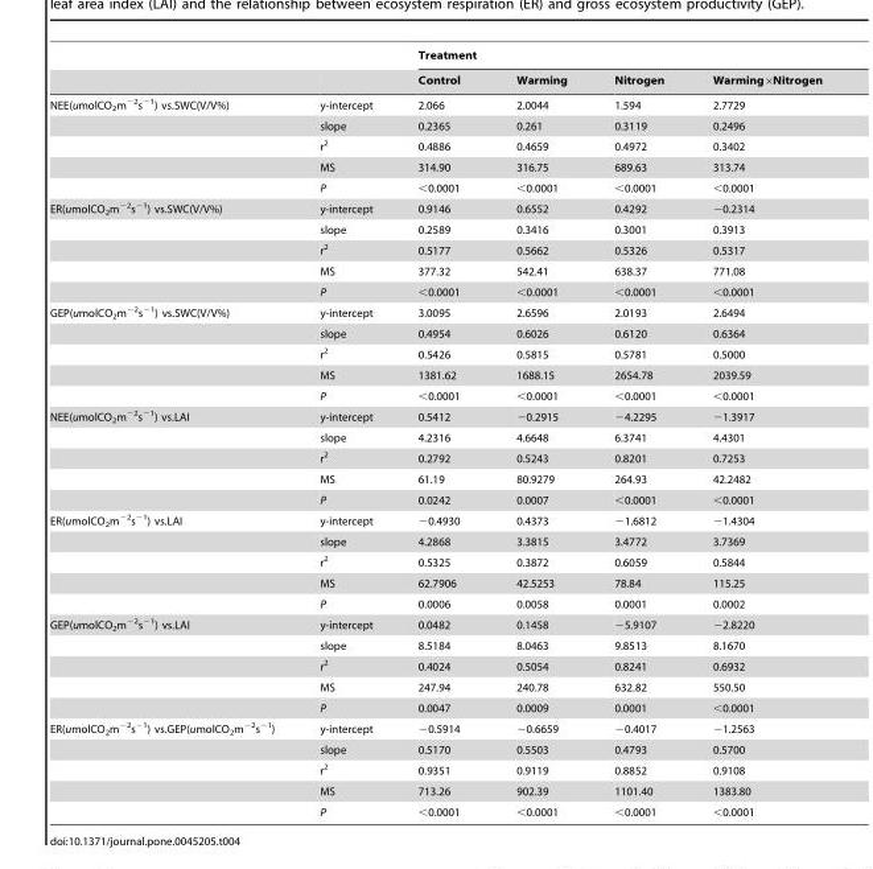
<table><thead><tr><td rowspan="2"></td><td rowspan="2"></td><td colspan="4">Treatment</td></tr><tr><td>Control</td><td>Warming</td><td>Nitrogen</td><td>Warming×Nitrogen</td></tr></thead><tbody><tr><td rowspan="5">NEE(umolCO<sub>2</sub>m<sup>−2</sup>s<sup>−1</sup>) vs.SWC(V/V%)</td><td>y-intercept</td><td>2.066</td><td>2.0044</td><td>1.594</td><td>2.7729</td></tr><tr><td>slope</td><td>0.2365</td><td>0.261</td><td>0.3119</td><td>0.2496</td></tr><tr><td>r<sup>2</sup></td><td>0.4886</td><td>0.4659</td><td>0.4972</td><td>0.3402</td></tr><tr><td>MS</td><td>314.90</td><td>316.75</td><td>689.63</td><td>313.74</td></tr><tr><td>P</td><td>&lt;0.0001</td><td>&lt;0.0001</td><td>&lt;0.0001</td><td>&lt;0.0001</td></tr><tr><td rowspan="5">ER(umolCO<sub>2</sub>m<sup>−2</sup>s<sup>−1</sup>) vs.SWC(V/V%)</td><td>y-intercept</td><td>0.9146</td><td>0.6552</td><td>0.4292</td><td>−0.2314</td></tr><tr><td>slope</td><td>0.2589</td><td>0.3416</td><td>0.3001</td><td>0.3913</td></tr><tr><td>r<sup>2</sup></td><td>0.5177</td><td>0.5662</td><td>0.5326</td><td>0.5317</td></tr><tr><td>MS</td><td>377.32</td><td>542.41</td><td>638.37</td><td>771.08</td></tr><tr><td>P</td><td>&lt;0.0001</td><td>&lt;0.0001</td><td>&lt;0.0001</td><td>&lt;0.0001</td></tr><tr><td rowspan="5">GEP(umolCO<sub>2</sub>m<sup>−2</sup>s<sup>−1</sup>) vs.SWC(V/V%)</td><td>y-intercept</td><td>3.0095</td><td>2.6596</td><td>2.0193</td><td>2.6494</td></tr><tr><td>slope</td><td>0.4954</td><td>0.6026</td><td>0.6120</td><td>0.6364</td></tr><tr><td>r<sup>2</sup></td><td>0.5426</td><td>0.5815</td><td>0.5781</td><td>0.5000</td></tr><tr><td>MS</td><td>1381.62</td><td>1688.15</td><td>2654.78</td><td>2039.59</td></tr><tr><td>P</td><td>&lt;0.0001</td><td>&lt;0.0001</td><td>&lt;0.0001</td><td>&lt;0.0001</td></tr><tr><td rowspan="5">NEE(umolCO<sub>2</sub>m<sup>−2</sup>s<sup>−1</sup>) vs.LAI</td><td>y-intercept</td><td>0.5412</td><td>−0.2915</td><td>−4.2295</td><td>−1.3917</td></tr><tr><td>slope</td><td>4.2316</td><td>4.6648</td><td>6.3741</td><td>4.4301</td></tr><tr><td>r<sup>2</sup></td><td>0.2792</td><td>0.5243</td><td>0.8201</td><td>0.7253</td></tr><tr><td>MS</td><td>61.19</td><td>80.9279</td><td>264.93</td><td>42.2482</td></tr><tr><td>P</td><td>0.0242</td><td>0.0007</td><td>&lt;0.0001</td><td>&lt;0.0001</td></tr><tr><td rowspan="5">ER(umolCO<sub>2</sub>m<sup>−2</sup>s<sup>−1</sup>) vs.LAI</td><td>y-intercept</td><td>−0.4930</td><td>0.4373</td><td>−1.6812</td><td>−1.4304</td></tr><tr><td>slope</td><td>4.2868</td><td>3.3815</td><td>3.4772</td><td>3.7369</td></tr><tr><td>r<sup>2</sup></td><td>0.5325</td><td>0.3872</td><td>0.6059</td><td>0.5844</td></tr><tr><td>MS</td><td>62.7906</td><td>42.5253</td><td>78.84</td><td>115.25</td></tr><tr><td>P</td><td>0.0006</td><td>0.0058</td><td>0.0001</td><td>0.0002</td></tr><tr><td rowspan="5">GEP(umolCO<sub>2</sub>m<sup>−2</sup>s<sup>−1</sup>) vs.LAI</td><td>y-intercept</td><td>0.0482</td><td>0.1458</td><td>−5.9107</td><td>−2.8220</td></tr><tr><td>slope</td><td>8.5184</td><td>8.0463</td><td>9.8513</td><td>8.1670</td></tr><tr><td>r<sup>2</sup></td><td>0.4024</td><td>0.5054</td><td>0.8241</td><td>0.6932</td></tr><tr><td>MS</td><td>247.94</td><td>240.78</td><td>632.82</td><td>550.50</td></tr><tr><td>P</td><td>0.0047</td><td>0.0009</td><td>0.0001</td><td>&lt;0.0001</td></tr><tr><td rowspan="5">ER(umolCO<sub>2</sub>m<sup>−2</sup>s<sup>−1</sup>) vs.GEP(umolCO<sub>2</sub>m<sup>−2</sup>s<sup>−1</sup>)</td><td>y-intercept</td><td>−0.5914</td><td>−0.6659</td><td>−0.4017</td><td>−1.2563</td></tr><tr><td>slope</td><td>0.5170</td><td>0.5503</td><td>0.4793</td><td>0.5700</td></tr><tr><td>r<sup>2</sup></td><td>0.9351</td><td>0.9119</td><td>0.8852</td><td>0.9108</td></tr><tr><td>MS</td><td>713.26</td><td>902.39</td><td>1101.40</td><td>1383.80</td></tr><tr><td>P</td><td>&lt;0.0001</td><td>&lt;0.0001</td><td>&lt;0.0001</td><td>&lt;0.0001</td></tr></tbody></table>